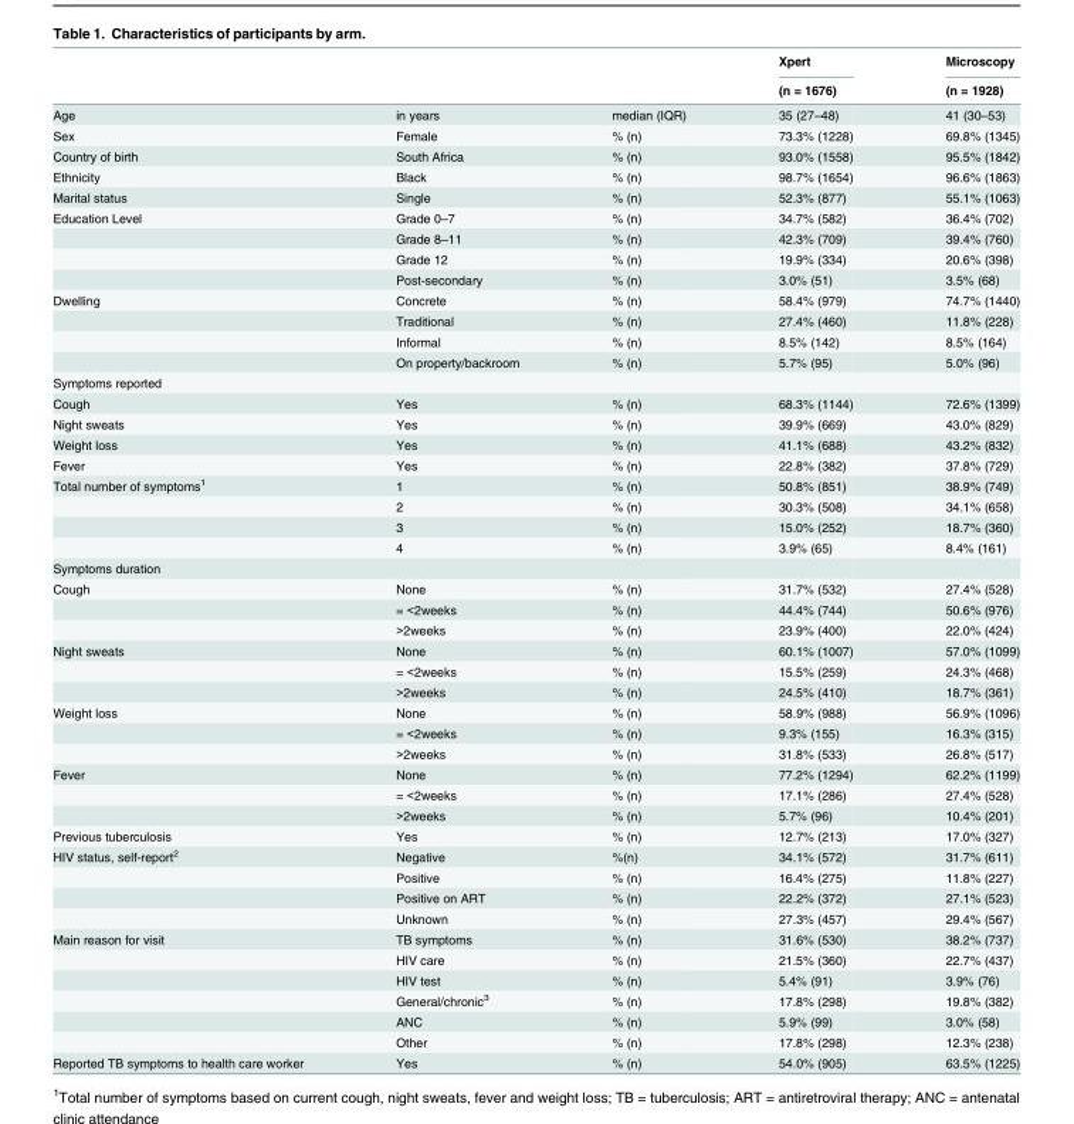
<table><thead><tr><td rowspan="2"></td><td rowspan="2"></td><td rowspan="2"></td><td rowspan="2">Xpert (n = 1676)</td><td rowspan="2">Microscopy (n = 1928)</td></tr><tr></tr></thead><tbody><tr><td>Age</td><td>in years</td><td>median (IQR)</td><td>35 (27–48)</td><td>41 (30–53)</td></tr><tr><td>Sex</td><td>Female</td><td>% (n)</td><td>73.3% (1228)</td><td>69.8% (1345)</td></tr><tr><td>Country of birth</td><td>South Africa</td><td>% (n)</td><td>93.0% (1558)</td><td>95.5% (1842)</td></tr><tr><td>Ethnicity</td><td>Black</td><td>% (n)</td><td>98.7% (1654)</td><td>96.6% (1863)</td></tr><tr><td>Marital status</td><td>Single</td><td>% (n)</td><td>52.3% (877)</td><td>55.1% (1063)</td></tr><tr><td rowspan="4">Education Level</td><td>Grade 0–7</td><td>% (n)</td><td>34.7% (582)</td><td>36.4% (702)</td></tr><tr><td>Grade 8–11</td><td>% (n)</td><td>42.3% (709)</td><td>39.4% (760)</td></tr><tr><td>Grade 12</td><td>% (n)</td><td>19.9% (334)</td><td>20.6% (398)</td></tr><tr><td>Post-secondary</td><td>% (n)</td><td>3.0% (51)</td><td>3.5% (68)</td></tr><tr><td rowspan="4">Dwelling</td><td>Concrete</td><td>% (n)</td><td>58.4% (979)</td><td>74.7% (1440)</td></tr><tr><td>Traditional</td><td>% (n)</td><td>27.4% (460)</td><td>11.8% (228)</td></tr><tr><td>Informal</td><td>% (n)</td><td>8.5% (142)</td><td>8.5% (164)</td></tr><tr><td>On property/backroom</td><td>% (n)</td><td>5.7% (95)</td><td>5.0% (96)</td></tr><tr><td colspan="5">Symptoms reported</td></tr><tr><td>Cough</td><td>Yes</td><td>% (n)</td><td>68.3% (1144)</td><td>72.6% (1399)</td></tr><tr><td>Night sweats</td><td>Yes</td><td>% (n)</td><td>39.9% (669)</td><td>43.0% (829)</td></tr><tr><td>Weight loss</td><td>Yes</td><td>% (n)</td><td>41.1% (688)</td><td>43.2% (832)</td></tr><tr><td>Fever</td><td>Yes</td><td>% (n)</td><td>22.8% (382)</td><td>37.8% (729)</td></tr><tr><td rowspan="4">Total number of symptoms<sup>1</sup></td><td>1</td><td>% (n)</td><td>50.8% (851)</td><td>38.9% (749)</td></tr><tr><td>2</td><td>% (n)</td><td>30.3% (508)</td><td>34.1% (658)</td></tr><tr><td>3</td><td>% (n)</td><td>15.0% (252)</td><td>18.7% (360)</td></tr><tr><td>4</td><td>% (n)</td><td>3.9% (65)</td><td>8.4% (161)</td></tr><tr><td colspan="5">Symptoms duration</td></tr><tr><td rowspan="3">Cough</td><td>None</td><td>% (n)</td><td>31.7% (532)</td><td>27.4% (528)</td></tr><tr><td>= &lt;2weeks</td><td>% (n)</td><td>44.4% (744)</td><td>50.6% (976)</td></tr><tr><td>&gt;2weeks</td><td>% (n)</td><td>23.9% (400)</td><td>22.0% (424)</td></tr><tr><td rowspan="3">Night sweats</td><td>None</td><td>% (n)</td><td>60.1% (1007)</td><td>57.0% (1099)</td></tr><tr><td>= &lt;2weeks</td><td>% (n)</td><td>15.5% (259)</td><td>24.3% (468)</td></tr><tr><td>&gt;2weeks</td><td>% (n)</td><td>24.5% (410)</td><td>18.7% (361)</td></tr><tr><td rowspan="3">Weight loss</td><td>None</td><td>% (n)</td><td>58.9% (988)</td><td>56.9% (1096)</td></tr><tr><td>= &lt;2weeks</td><td>% (n)</td><td>9.3% (155)</td><td>16.3% (315)</td></tr><tr><td>&gt;2weeks</td><td>% (n)</td><td>31.8% (533)</td><td>26.8% (517)</td></tr><tr><td rowspan="3">Fever</td><td>None</td><td>% (n)</td><td>77.2% (1294)</td><td>62.2% (1199)</td></tr><tr><td>= &lt;2weeks</td><td>% (n)</td><td>17.1% (286)</td><td>27.4% (528)</td></tr><tr><td>&gt;2weeks</td><td>% (n)</td><td>5.7% (96)</td><td>10.4% (201)</td></tr><tr><td>Previous tuberculosis</td><td>Yes</td><td>% (n)</td><td>12.7% (213)</td><td>17.0% (327)</td></tr><tr><td rowspan="4">HIV status, self-report<sup>2</sup></td><td>Negative</td><td>%(n)</td><td>34.1% (572)</td><td>31.7% (611)</td></tr><tr><td>Positive</td><td>% (n)</td><td>16.4% (275)</td><td>11.8% (227)</td></tr><tr><td>Positive on ART</td><td>% (n)</td><td>22.2% (372)</td><td>27.1% (523)</td></tr><tr><td>Unknown</td><td>% (n)</td><td>27.3% (457)</td><td>29.4% (567)</td></tr><tr><td rowspan="6">Main reason for visit</td><td>TB symptoms</td><td>% (n)</td><td>31.6% (530)</td><td>38.2% (737)</td></tr><tr><td>HIV care</td><td>% (n)</td><td>21.5% (360)</td><td>22.7% (437)</td></tr><tr><td>HIV test</td><td>% (n)</td><td>5.4% (91)</td><td>3.9% (76)</td></tr><tr><td>General/chronic<sup>3</sup></td><td>% (n)</td><td>17.8% (298)</td><td>19.8% (382)</td></tr><tr><td>ANC</td><td>% (n)</td><td>5.9% (99)</td><td>3.0% (58)</td></tr><tr><td>Other</td><td>% (n)</td><td>17.8% (298)</td><td>12.3% (238)</td></tr><tr><td>Reported TB symptoms to health care worker</td><td>Yes</td><td>% (n)</td><td>54.0% (905)</td><td>63.5% (1225)</td></tr></tbody></table>